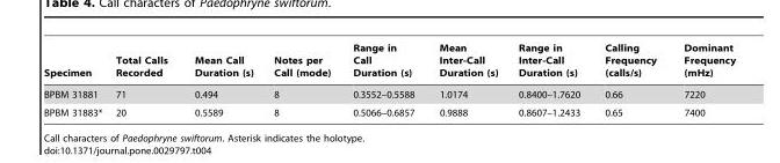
<table><thead><tr><td>Specimen</td><td>Total Calls Recorded</td><td>Mean Call Duration (s)</td><td>Notes per Call (mode)</td><td>Range in Call Duration (s)</td><td>Mean Inter-Call Duration (s)</td><td>Range in Inter-Call Duration (s)</td><td>Calling Frequency (calls/s)</td><td>Dominant Frequency (mHz)</td></tr></thead><tbody><tr><td>BPBM 31881</td><td>71</td><td>0.494</td><td>8</td><td>0.3552–0.5588</td><td>1.0174</td><td>0.8400–1.7620</td><td>0.66</td><td>7220</td></tr><tr><td>BPBM 31883*</td><td>20</td><td>0.5589</td><td>8</td><td>0.5066–0.6857</td><td>0.9888</td><td>0.8607–1.2433</td><td>0.65</td><td>7400</td></tr></tbody></table>